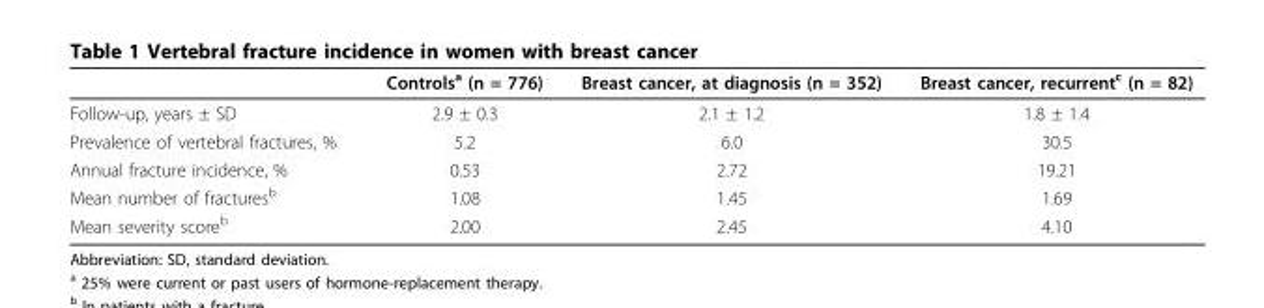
<table><thead><tr><td></td><td>Controls<sup>a</sup> (n = 776)</td><td>Breast cancer, at diagnosis (n = 352)</td><td>Breast cancer, recurrent<sup>c</sup> (n = 82)</td></tr></thead><tbody><tr><td>Follow-up, years ± SD</td><td>2.9 ± 0.3</td><td>2.1 ± 1.2</td><td>1.8 ± 1.4</td></tr><tr><td>Prevalence of vertebral fractures, %</td><td>5.2</td><td>6.0</td><td>30.5</td></tr><tr><td>Annual fracture incidence, %</td><td>0.53</td><td>2.72</td><td>19.21</td></tr><tr><td>Mean number of fractures<sup>b</sup></td><td>1.08</td><td>1.45</td><td>1.69</td></tr><tr><td>Mean severity score<sup>b</sup></td><td>2.00</td><td>2.45</td><td>4.10</td></tr></tbody></table>